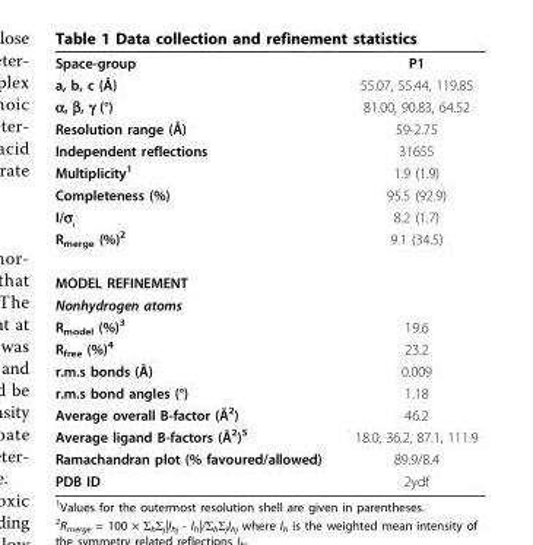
<table><tbody><tr><td>Space-group</td><td>P1</td></tr><tr><td>a, b, c (Å)</td><td>55.07, 55.44, 119.85</td></tr><tr><td>α, β, γ (°)</td><td>81.00, 90.83, 64.52</td></tr><tr><td>Resolution range (Å)</td><td>59-2.75</td></tr><tr><td>Independent reflections</td><td>31655</td></tr><tr><td>Multiplicity<sup>1</sup></td><td>1.9 (1.9)</td></tr><tr><td>Completeness (%)</td><td>95.5 (92.9)</td></tr><tr><td>I/σI</td><td>8.2 (1.7)</td></tr><tr><td>R<sub>merge</sub> (%)<sup>2</sup></td><td>9.1 (34.5)</td></tr><tr><td colspan="2">MODEL REFINEMENT</td></tr><tr><td colspan="2">Nonhydrogen atoms</td></tr><tr><td>R<sub>model</sub> (%)<sup>3</sup></td><td>19.6</td></tr><tr><td>R<sub>free</sub> (%)<sup>4</sup></td><td>23.2</td></tr><tr><td>r.m.s bonds (Å)</td><td>0.009</td></tr><tr><td>r.m.s bond angles (°)</td><td>1.18</td></tr><tr><td>Average overall B-factor (Å<sup>2</sup>)</td><td>46.2</td></tr><tr><td>Average ligand B-factors (Å<sup>2</sup>)<sup>5</sup></td><td>18.0, 36.2, 87.1, 111.9</td></tr><tr><td>Ramachandran plot (% favoured/allowed)</td><td>89.9/8.4</td></tr><tr><td>PDB ID</td><td>2ydf</td></tr></tbody></table>